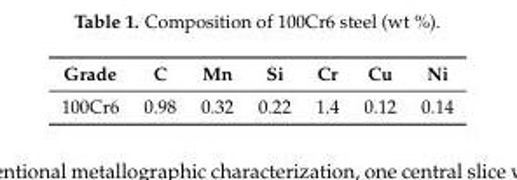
<table><thead><tr><td>Grade</td><td>C</td><td>Mn</td><td>Si</td><td>Cr</td><td>Cu</td><td>Ni</td></tr></thead><tbody><tr><td>100Cr6</td><td>0.98</td><td>0.32</td><td>0.22</td><td>1.4</td><td>0.12</td><td>0.14</td></tr></tbody></table>